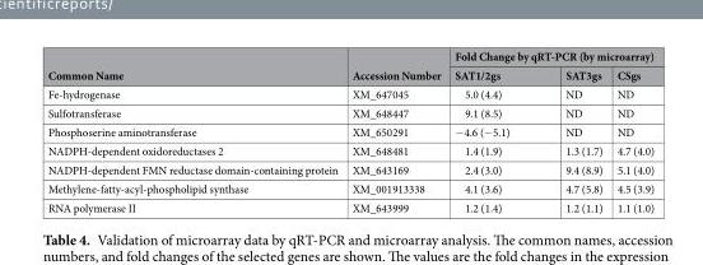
<table><thead><tr><td rowspan="2">Common Name</td><td rowspan="2">Accession Number</td><td colspan="3">Fold Change by qRT-PCR (by microarray)</td></tr><tr><td>SAT1/2gs</td><td>SAT3gs</td><td>CSgs</td></tr></thead><tbody><tr><td>Fe-hydrogenase</td><td>XM_647045</td><td>5.0 (4.4)</td><td>ND</td><td>ND</td></tr><tr><td>Sulfotransferase</td><td>XM_648447</td><td>9.1 (8.5)</td><td>ND</td><td>ND</td></tr><tr><td>Phosphoserine aminotransferase</td><td>XM_650291</td><td>−4.6 (−5.1)</td><td>ND</td><td>ND</td></tr><tr><td>NADPH-dependent oxidoreductases 2</td><td>XM_648481</td><td>1.4 (1.9)</td><td>1.3 (1.7)</td><td>4.7 (4.0)</td></tr><tr><td>NADPH-dependent FMN reductase domain-containing protein</td><td>XM_643169</td><td>2.4 (3.0)</td><td>9.4 (8.9)</td><td>5.1 (4.0)</td></tr><tr><td>Methylene-fatty-acyl-phospholipid synthase</td><td>XM_001913338</td><td>4.1 (3.6)</td><td>4.7 (5.8)</td><td>4.5 (3.9)</td></tr><tr><td>RNA polymerase II</td><td>XM_643999</td><td>1.2 (1.4)</td><td>1.2 (1.1)</td><td>1.1 (1.0)</td></tr></tbody></table>